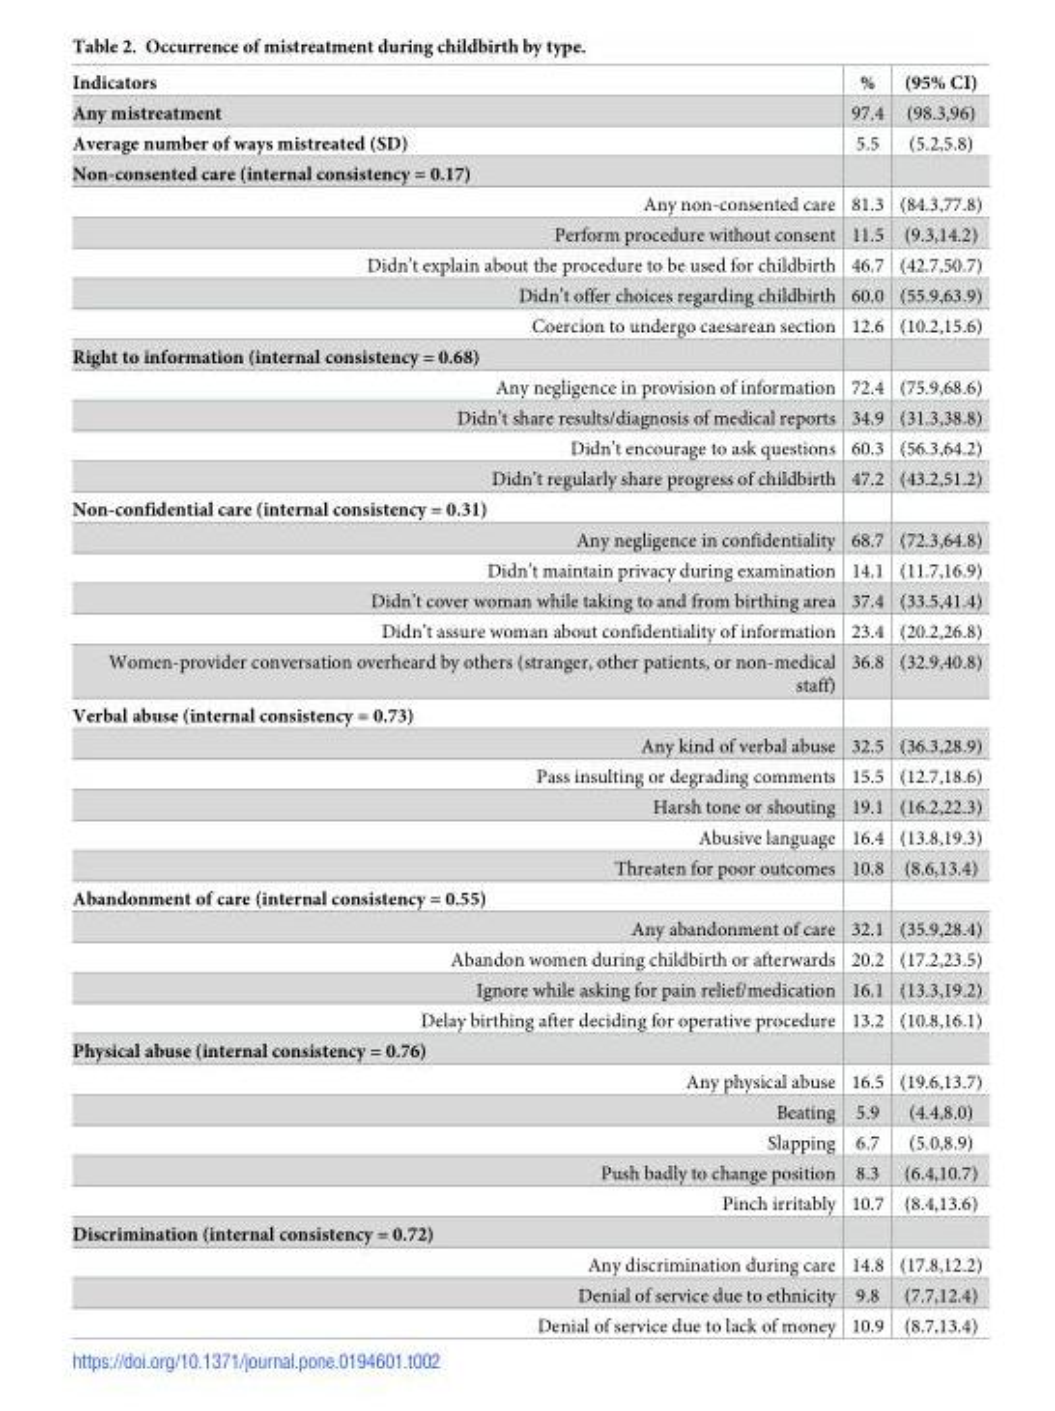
<table><thead><tr><td>Indicators</td><td>%</td><td>(95% CI)</td></tr></thead><tbody><tr><td>Any mistreatment</td><td>97.4</td><td>(98.3,96)</td></tr><tr><td>Average number of ways mistreated (SD)</td><td>5.5</td><td>(5.2,5.8)</td></tr><tr><td colspan="3">Non-consented care (internal consistency = 0.17)</td></tr><tr><td>Any non-consented care</td><td>81.3</td><td>(84.3,77.8)</td></tr><tr><td>Perform procedure without consent</td><td>11.5</td><td>(9.3,14.2)</td></tr><tr><td>Didn’t explain about the procedure to be used for childbirth</td><td>46.7</td><td>(42.7,50.7)</td></tr><tr><td>Didn’t offer choices regarding childbirth</td><td>60.0</td><td>(55.9,63.9)</td></tr><tr><td>Coercion to undergo caesarean section</td><td>12.6</td><td>(10.2,15.6)</td></tr><tr><td colspan="3">Right to information (internal consistency = 0.68)</td></tr><tr><td>Any negligence in provision of information</td><td>72.4</td><td>(75.9,68.6)</td></tr><tr><td>Didn’t share results/diagnosis of medical reports</td><td>34.9</td><td>(31.3,38.8)</td></tr><tr><td>Didn’t encourage to ask questions</td><td>60.3</td><td>(56.3,64.2)</td></tr><tr><td>Didn’t regularly share progress of childbirth</td><td>47.2</td><td>(43.2,51.2)</td></tr><tr><td colspan="3">Non-confidential care (internal consistency = 0.31)</td></tr><tr><td>Any negligence in confidentiality</td><td>68.7</td><td>(72.3,64.8)</td></tr><tr><td>Didn’t maintain privacy during examination</td><td>14.1</td><td>(11.7,16.9)</td></tr><tr><td>Didn’t cover woman while taking to and from birthing area</td><td>37.4</td><td>(33.5,41.4)</td></tr><tr><td>Didn’t assure woman about confidentiality of information</td><td>23.4</td><td>(20.2,26.8)</td></tr><tr><td>Women-provider conversation overheard by others (stranger, other patients, or non-medical staff)</td><td>36.8</td><td>(32.9,40.8)</td></tr><tr><td colspan="3">Verbal abuse (internal consistency = 0.73)</td></tr><tr><td>Any kind of verbal abuse</td><td>32.5</td><td>(36.3,28.9)</td></tr><tr><td>Pass insulting or degrading comments</td><td>15.5</td><td>(12.7,18.6)</td></tr><tr><td>Harsh tone or shouting</td><td>19.1</td><td>(16.2,22.3)</td></tr><tr><td>Abusive language</td><td>16.4</td><td>(13.8,19.3)</td></tr><tr><td>Threaten for poor outcomes</td><td>10.8</td><td>(8.6,13.4)</td></tr><tr><td colspan="3">Abandonment of care (internal consistency = 0.55)</td></tr><tr><td>Any abandonment of care</td><td>32.1</td><td>(35.9,28.4)</td></tr><tr><td>Abandon women during childbirth or afterwards</td><td>20.2</td><td>(17.2,23.5)</td></tr><tr><td>Ignore while asking for pain relief/medication</td><td>16.1</td><td>(13.3,19.2)</td></tr><tr><td>Delay birthing after deciding for operative procedure</td><td>13.2</td><td>(10.8,16.1)</td></tr><tr><td colspan="3">Physical abuse (internal consistency = 0.76)</td></tr><tr><td>Any physical abuse</td><td>16.5</td><td>(19.6,13.7)</td></tr><tr><td>Beating</td><td>5.9</td><td>(4.4,8.0)</td></tr><tr><td>Slapping</td><td>6.7</td><td>(5.0,8.9)</td></tr><tr><td>Push badly to change position</td><td>8.3</td><td>(6.4,10.7)</td></tr><tr><td>Pinch irritably</td><td>10.7</td><td>(8.4,13.6)</td></tr><tr><td colspan="3">Discrimination (internal consistency = 0.72)</td></tr><tr><td>Any discrimination during care</td><td>14.8</td><td>(17.8,12.2)</td></tr><tr><td>Denial of service due to ethnicity</td><td>9.8</td><td>(7.7,12.4)</td></tr><tr><td>Denial of service due to lack of money</td><td>10.9</td><td>(8.7,13.4)</td></tr></tbody></table>